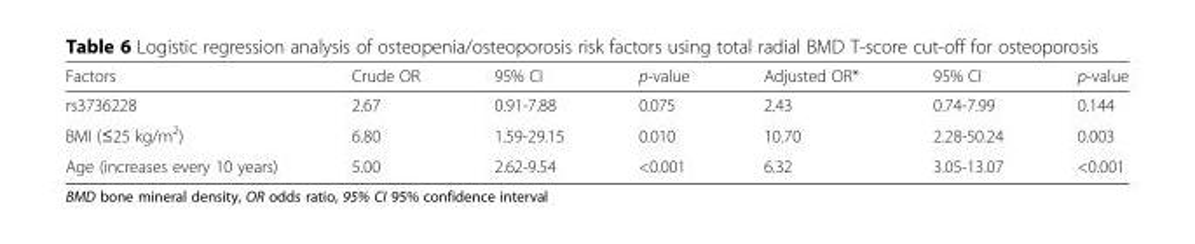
<table><thead><tr><td>Factors</td><td>Crude OR</td><td>95% CI</td><td>p-value</td><td>Adjusted OR*</td><td>95% CI</td><td>p-value</td></tr></thead><tbody><tr><td>rs3736228</td><td>2.67</td><td>0.91-7.88</td><td>0.075</td><td>2.43</td><td>0.74-7.99</td><td>0.144</td></tr><tr><td>BMI (≤25 kg/m<sup>2</sup>)</td><td>6.80</td><td>1.59-29.15</td><td>0.010</td><td>10.70</td><td>2.28-50.24</td><td>0.003</td></tr><tr><td>Age (increases every 10 years)</td><td>5.00</td><td>2.62-9.54</td><td>&lt;0.001</td><td>6.32</td><td>3.05-13.07</td><td>&lt;0.001</td></tr></tbody></table>